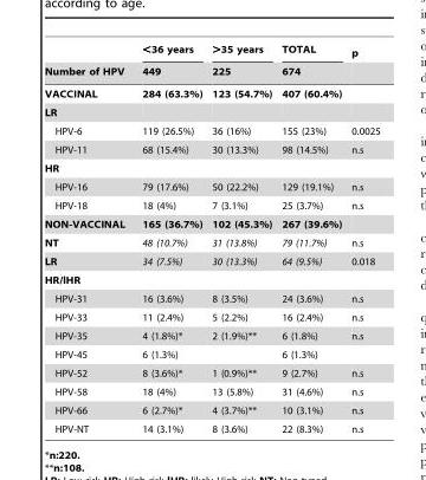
<table><thead><tr><td rowspan="2">Number of HPV</td><td rowspan="2">&lt;36 years 449</td><td rowspan="2">&gt;35 years 225</td><td rowspan="2">TOTAL 674</td><td rowspan="2">p</td></tr><tr></tr></thead><tbody><tr><td>VACCINAL</td><td>284 (63.3%)</td><td>123 (54.7%)</td><td>407 (60.4%)</td><td></td></tr><tr><td colspan="5">LR</td></tr><tr><td>HPV-6</td><td>119 (26.5%)</td><td>36 (16%)</td><td>155 (23%)</td><td>0.0025</td></tr><tr><td>HPV-11</td><td>68 (15.4%)</td><td>30 (13.3%)</td><td>98 (14.5%)</td><td>n.s</td></tr><tr><td colspan="5">HR</td></tr><tr><td>HPV-16</td><td>79 (17.6%)</td><td>50 (22.2%)</td><td>129 (19.1%)</td><td>n.s</td></tr><tr><td>HPV-18</td><td>18 (4%)</td><td>7 (3.1%)</td><td>25 (3.7%)</td><td>n.s</td></tr><tr><td>NON-VACCINAL</td><td>165 (36.7%)</td><td>102 (45.3%)</td><td>267 (39.6%)</td><td></td></tr><tr><td>NT</td><td>48 (10.7%)</td><td>31 (13.8%)</td><td>79 (11.7%)</td><td>n.s</td></tr><tr><td>LR</td><td>34 (7.5%)</td><td>30 (13.3%)</td><td>64 (9.5%)</td><td>0.018</td></tr><tr><td colspan="5">HR/lHR</td></tr><tr><td>HPV-31</td><td>16 (3.6%)</td><td>8 (3.5%)</td><td>24 (3.6%)</td><td>n.s</td></tr><tr><td>HPV-33</td><td>11 (2.4%)</td><td>5 (2.2%)</td><td>16 (2.4%)</td><td>n.s</td></tr><tr><td>HPV-35</td><td>4 (1.8%)*</td><td>2 (1.9%)**</td><td>6 (1.8%)</td><td>n.s</td></tr><tr><td>HPV-45</td><td>6 (1.3%)</td><td></td><td>6 (1.3%)</td><td></td></tr><tr><td>HPV-52</td><td>8 (3.6%)*</td><td>1 (0.9%)**</td><td>9 (2.7%)</td><td>n.s</td></tr><tr><td>HPV-58</td><td>18 (4%)</td><td>13 (5.8%)</td><td>31 (4.6%)</td><td>n.s</td></tr><tr><td>HPV-66</td><td>6 (2.7%)*</td><td>4 (3.7%)**</td><td>10 (3.1%)</td><td>n.s</td></tr><tr><td>HPV-NT</td><td>14 (3.1%)</td><td>8 (3.6%)</td><td>22 (8.3%)</td><td>n.s</td></tr></tbody></table>